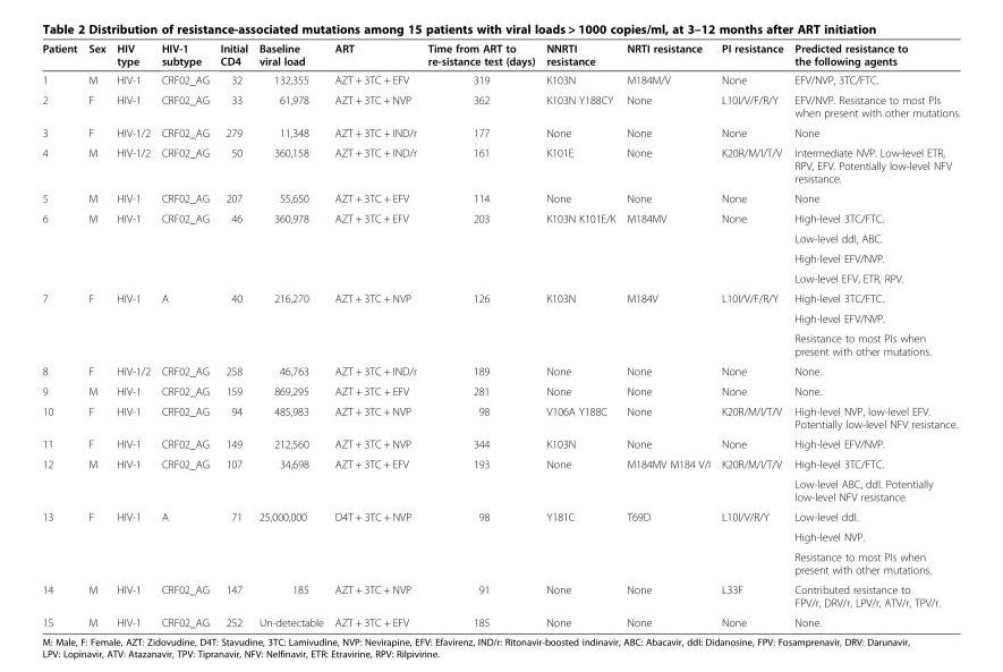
<table><thead><tr><td>Patient</td><td>Sex</td><td>HIV type</td><td>HIV-1 subtype</td><td>Initial CD4</td><td>Baseline viral load</td><td>ART</td><td>Time from ART to re-sistance test (days)</td><td>NNRTI resistance</td><td>NRTI resistance</td><td>PI resistance</td><td>Predicted resistance to the following agents</td></tr></thead><tbody><tr><td>1</td><td>M</td><td>HIV-1</td><td>CRF02_AG</td><td>32</td><td>132,355</td><td>AZT + 3TC + EFV</td><td>319</td><td>K103N</td><td>M184M/V</td><td>None</td><td>EFV/NVP, 3TC/FTC.</td></tr><tr><td>2</td><td>F</td><td>HIV-1</td><td>CRF02_AG</td><td>33</td><td>61,978</td><td>AZT + 3TC + NVP</td><td>362</td><td>K103N Y188CY</td><td>None</td><td>L10I/V/F/R/Y</td><td>EFV/NVP. Resistance to most PIs when present with other mutations.</td></tr><tr><td>3</td><td>F</td><td>HIV-1/2</td><td>CRF02_AG</td><td>279</td><td>11,348</td><td>AZT + 3TC + IND/r</td><td>177</td><td>None</td><td>None</td><td>None</td><td>None</td></tr><tr><td>4</td><td>M</td><td>HIV-1/2</td><td>CRF02_AG</td><td>50</td><td>360,158</td><td>AZT + 3TC + IND/r</td><td>161</td><td>K101E</td><td>None</td><td>K20R/M/I/T/V</td><td>Intermediate NVP. Low-level ETR, RPV, EFV. Potentially low-level NFV resistance.</td></tr><tr><td>5</td><td>M</td><td>HIV-1</td><td>CRF02_AG</td><td>207</td><td>55,650</td><td>AZT + 3TC + EFV</td><td>114</td><td>None</td><td>None</td><td>None</td><td>None</td></tr><tr><td rowspan="4">6</td><td rowspan="4">M</td><td rowspan="4">HIV-1</td><td rowspan="4">CRF02_AG</td><td rowspan="4">46</td><td rowspan="4">360,978</td><td rowspan="4">AZT + 3TC + EFV</td><td rowspan="4">203</td><td rowspan="4">K103N K101E/K</td><td rowspan="4">M184MV</td><td rowspan="4">None</td><td>High-level 3TC/FTC.</td></tr><tr><td>Low-level ddI, ABC.</td></tr><tr><td>High-level EFV/NVP.</td></tr><tr><td>Low-level EFV, ETR, RPV.</td></tr><tr><td rowspan="3">7</td><td rowspan="3">F</td><td rowspan="3">HIV-1</td><td rowspan="3">A</td><td rowspan="3">40</td><td rowspan="3">216,270</td><td rowspan="3">AZT + 3TC + NVP</td><td rowspan="3">126</td><td rowspan="3">K103N</td><td rowspan="3">M184V</td><td rowspan="3">L10I/V/F/R/Y</td><td>High-level 3TC/FTC.</td></tr><tr><td>High-level EFV/NVP.</td></tr><tr><td>Resistance to most PIs when present with other mutations.</td></tr><tr><td>8</td><td>F</td><td>HIV-1/2</td><td>CRF02_AG</td><td>258</td><td>46,763</td><td>AZT + 3TC + IND/r</td><td>189</td><td>None</td><td>None</td><td>None</td><td>None.</td></tr><tr><td>9</td><td>M</td><td>HIV-1</td><td>CRF02_AG</td><td>159</td><td>869,295</td><td>AZT + 3TC + EFV</td><td>281</td><td>None</td><td>None</td><td>None</td><td>None.</td></tr><tr><td>10</td><td>F</td><td>HIV-1</td><td>CRF02_AG</td><td>94</td><td>485,983</td><td>AZT + 3TC + NVP</td><td>98</td><td>V106A Y188C</td><td>None</td><td>K20R/M/I/T/V</td><td>High-level NVP, low-level EFV. Potentially low-level NFV resistance.</td></tr><tr><td>11</td><td>F</td><td>HIV-1</td><td>CRF02_AG</td><td>149</td><td>212,560</td><td>AZT + 3TC + NVP</td><td>344</td><td>K103N</td><td>None</td><td>None</td><td>High-level EFV/NVP.</td></tr><tr><td rowspan="2">12</td><td rowspan="2">M</td><td rowspan="2">HIV-1</td><td rowspan="2">CRF02_AG</td><td rowspan="2">107</td><td rowspan="2">34,698</td><td rowspan="2">AZT + 3TC + EFV</td><td rowspan="2">193</td><td rowspan="2">None</td><td rowspan="2">M184MV M184 V/I</td><td rowspan="2">K20R/M/I/T/V</td><td>High-level 3TC/FTC.</td></tr><tr><td>Low-level ABC, ddI. Potentially low-level NFV resistance.</td></tr><tr><td rowspan="3">13</td><td rowspan="3">F</td><td rowspan="3">HIV-1</td><td rowspan="3">A</td><td rowspan="3">71</td><td rowspan="3">25,000,000</td><td rowspan="3">D4T + 3TC + NVP</td><td rowspan="3">98</td><td rowspan="3">Y181C</td><td rowspan="3">T69D</td><td rowspan="3">L10I/V/R/Y</td><td>Low-level ddI.</td></tr><tr><td>High-level NVP.</td></tr><tr><td>Resistance to most PIs when present with other mutations.</td></tr><tr><td>14</td><td>M</td><td>HIV-1</td><td>CRF02_AG</td><td>147</td><td>185</td><td>AZT + 3TC + NVP</td><td>91</td><td>None</td><td>None</td><td>L33F</td><td>Contributed resistance to FPV/r, DRV/r, LPV/r, ATV/r, TPV/r.</td></tr><tr><td>15</td><td>M</td><td>HIV-1</td><td>CRF02_AG</td><td>252</td><td>Un-detectable</td><td>AZT + 3TC + EFV</td><td>185</td><td>None</td><td>None</td><td>None</td><td>None.</td></tr></tbody></table>